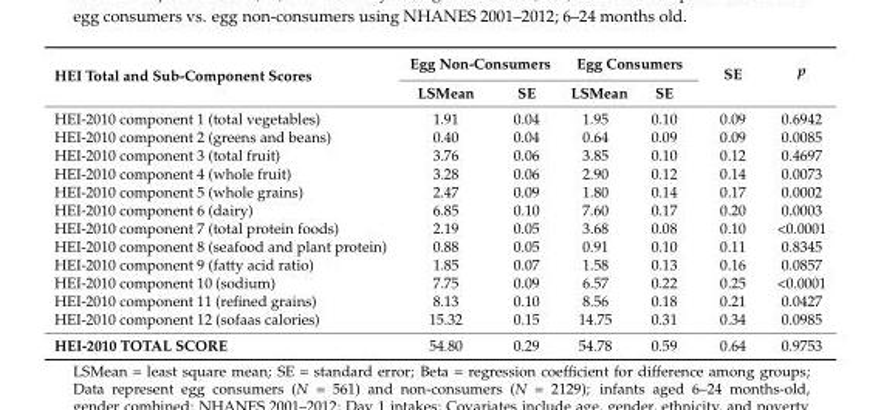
<table><thead><tr><td rowspan="2">HEI Total and Sub-Component Scores</td><td colspan="2">Egg Non-Consumers</td><td colspan="2">Egg Consumers</td><td rowspan="2">SE</td><td rowspan="2">p</td></tr><tr><td>LSMean</td><td>SE</td><td>LSMean</td><td>SE</td></tr></thead><tbody><tr><td>HEI-2010 component 1 (total vegetables)</td><td>1.91</td><td>0.04</td><td>1.95</td><td>0.10</td><td>0.09</td><td>0.6942</td></tr><tr><td>HEI-2010 component 2 (greens and beans)</td><td>0.40</td><td>0.04</td><td>0.64</td><td>0.09</td><td>0.09</td><td>0.0085</td></tr><tr><td>HEI-2010 component 3 (total fruit)</td><td>3.76</td><td>0.06</td><td>3.85</td><td>0.10</td><td>0.12</td><td>0.4697</td></tr><tr><td>HEI-2010 component 4 (whole fruit)</td><td>3.28</td><td>0.06</td><td>2.90</td><td>0.12</td><td>0.14</td><td>0.0073</td></tr><tr><td>HEI-2010 component 5 (whole grains)</td><td>2.47</td><td>0.09</td><td>1.80</td><td>0.14</td><td>0.17</td><td>0.0002</td></tr><tr><td>HEI-2010 component 6 (dairy)</td><td>6.85</td><td>0.10</td><td>7.60</td><td>0.17</td><td>0.20</td><td>0.0003</td></tr><tr><td>HEI-2010 component 7 (total protein foods)</td><td>2.19</td><td>0.05</td><td>3.68</td><td>0.08</td><td>0.10</td><td>&lt;0.0001</td></tr><tr><td>HEI-2010 component 8 (seafood and plant protein)</td><td>0.88</td><td>0.05</td><td>0.91</td><td>0.10</td><td>0.11</td><td>0.8345</td></tr><tr><td>HEI-2010 component 9 (fatty acid ratio)</td><td>1.85</td><td>0.07</td><td>1.58</td><td>0.13</td><td>0.16</td><td>0.0857</td></tr><tr><td>HEI-2010 component 10 (sodium)</td><td>7.75</td><td>0.09</td><td>6.57</td><td>0.22</td><td>0.25</td><td>&lt;0.0001</td></tr><tr><td>HEI-2010 component 11 (refined grains)</td><td>8.13</td><td>0.10</td><td>8.56</td><td>0.18</td><td>0.21</td><td>0.0427</td></tr><tr><td>HEI-2010 component 12 (sofaas calories)</td><td>15.32</td><td>0.15</td><td>14.75</td><td>0.31</td><td>0.34</td><td>0.0985</td></tr><tr><td>HEI-2010 TOTAL SCORE</td><td>54.80</td><td>0.29</td><td>54.78</td><td>0.59</td><td>0.64</td><td>0.9753</td></tr></tbody></table>